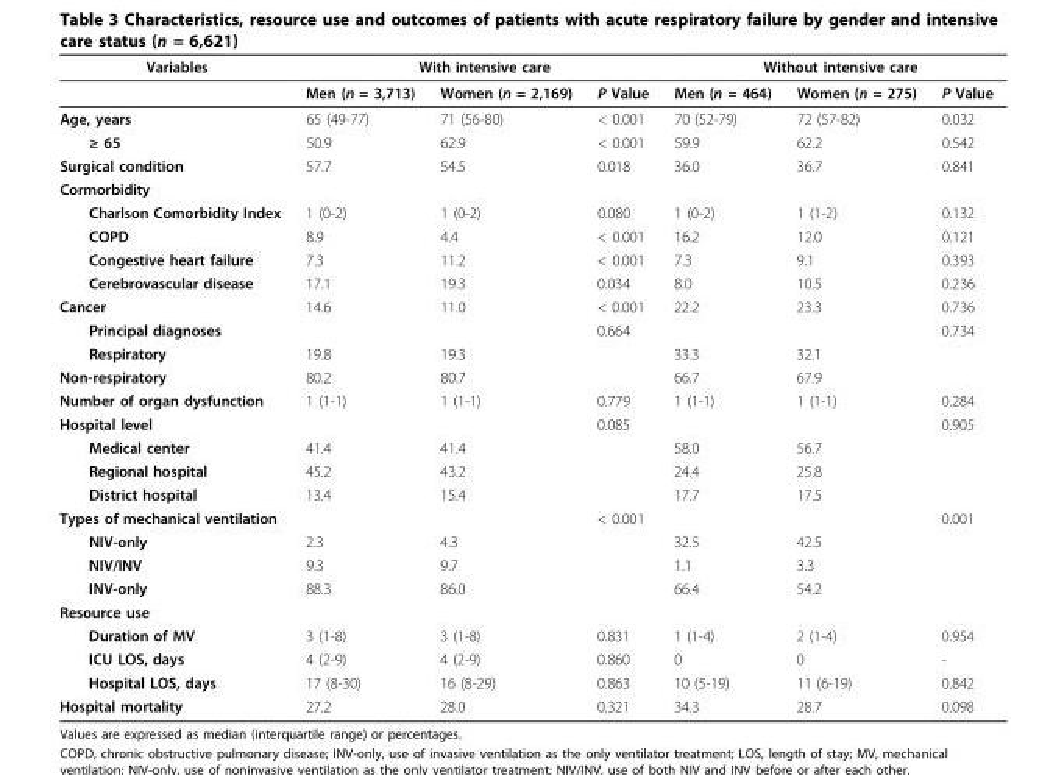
<table><thead><tr><td rowspan="2">Variables</td><td colspan="3">With intensive care</td><td colspan="3">Without intensive care</td></tr><tr><td>Men (n = 3,713)</td><td>Women (n = 2,169)</td><td>P Value</td><td>Men (n = 464)</td><td>Women (n = 275)</td><td>P Value</td></tr></thead><tbody><tr><td>Age, years</td><td>65 (49-77)</td><td>71 (56-80)</td><td>&lt; 0.001</td><td>70 (52-79)</td><td>72 (57-82)</td><td>0.032</td></tr><tr><td>≥ 65</td><td>50.9</td><td>62.9</td><td>&lt; 0.001</td><td>59.9</td><td>62.2</td><td>0.542</td></tr><tr><td>Surgical condition</td><td>57.7</td><td>54.5</td><td>0.018</td><td>36.0</td><td>36.7</td><td>0.841</td></tr><tr><td colspan="7">Cormorbidity</td></tr><tr><td>Charlson Comorbidity Index</td><td>1 (0-2)</td><td>1 (0-2)</td><td>0.080</td><td>1 (0-2)</td><td>1 (1-2)</td><td>0.132</td></tr><tr><td>COPD</td><td>8.9</td><td>4.4</td><td>&lt; 0.001</td><td>16.2</td><td>12.0</td><td>0.121</td></tr><tr><td>Congestive heart failure</td><td>7.3</td><td>11.2</td><td>&lt; 0.001</td><td>7.3</td><td>9.1</td><td>0.393</td></tr><tr><td>Cerebrovascular disease</td><td>17.1</td><td>19.3</td><td>0.034</td><td>8.0</td><td>10.5</td><td>0.236</td></tr><tr><td>Cancer</td><td>14.6</td><td>11.0</td><td>&lt; 0.001</td><td>22.2</td><td>23.3</td><td>0.736</td></tr><tr><td>Principal diagnoses</td><td></td><td></td><td>0.664</td><td></td><td></td><td>0.734</td></tr><tr><td>Respiratory</td><td>19.8</td><td>19.3</td><td></td><td>33.3</td><td>32.1</td><td></td></tr><tr><td>Non-respiratory</td><td>80.2</td><td>80.7</td><td></td><td>66.7</td><td>67.9</td><td></td></tr><tr><td>Number of organ dysfunction</td><td>1 (1-1)</td><td>1 (1-1)</td><td>0.779</td><td>1 (1-1)</td><td>1 (1-1)</td><td>0.284</td></tr><tr><td>Hospital level</td><td></td><td></td><td>0.085</td><td></td><td></td><td>0.905</td></tr><tr><td>Medical center</td><td>41.4</td><td>41.4</td><td></td><td>58.0</td><td>56.7</td><td></td></tr><tr><td>Regional hospital</td><td>45.2</td><td>43.2</td><td></td><td>24.4</td><td>25.8</td><td></td></tr><tr><td>District hospital</td><td>13.4</td><td>15.4</td><td></td><td>17.7</td><td>17.5</td><td></td></tr><tr><td>Types of mechanical ventilation</td><td></td><td></td><td>&lt; 0.001</td><td></td><td></td><td>0.001</td></tr><tr><td>NIV-only</td><td>2.3</td><td>4.3</td><td></td><td>32.5</td><td>42.5</td><td></td></tr><tr><td>NIV/INV</td><td>9.3</td><td>9.7</td><td></td><td>1.1</td><td>3.3</td><td></td></tr><tr><td>INV-only</td><td>88.3</td><td>86.0</td><td></td><td>66.4</td><td>54.2</td><td></td></tr><tr><td colspan="7">Resource use</td></tr><tr><td>Duration of MV</td><td>3 (1-8)</td><td>3 (1-8)</td><td>0.831</td><td>1 (1-4)</td><td>2 (1-4)</td><td>0.954</td></tr><tr><td>ICU LOS, days</td><td>4 (2-9)</td><td>4 (2-9)</td><td>0.860</td><td>0</td><td>0</td><td>-</td></tr><tr><td>Hospital LOS, days</td><td>17 (8-30)</td><td>16 (8-29)</td><td>0.863</td><td>10 (5-19)</td><td>11 (6-19)</td><td>0.842</td></tr><tr><td>Hospital mortality</td><td>27.2</td><td>28.0</td><td>0.321</td><td>34.3</td><td>28.7</td><td>0.098</td></tr></tbody></table>